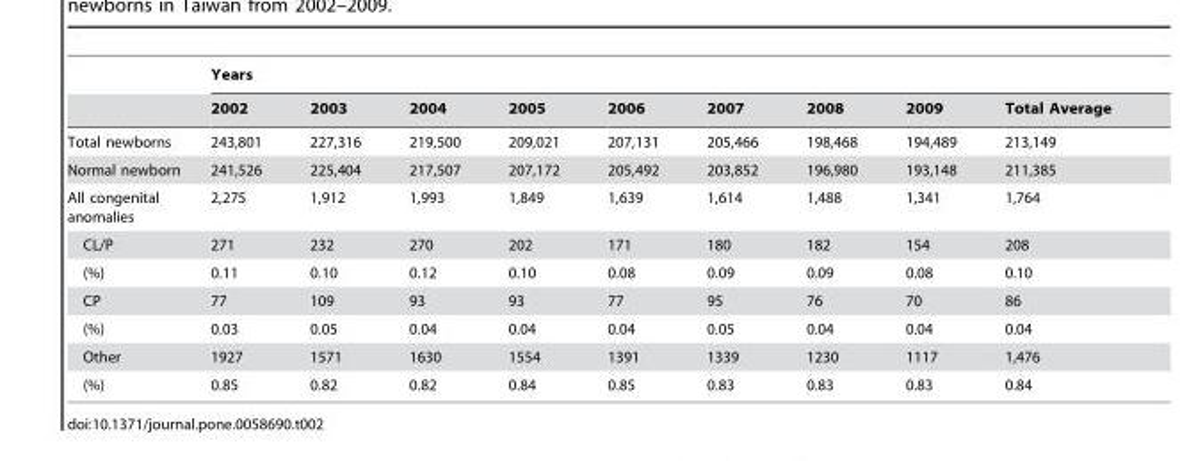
<table><thead><tr><td rowspan="2"></td><td colspan="9">Years</td></tr><tr><td>2002</td><td>2003</td><td>2004</td><td>2005</td><td>2006</td><td>2007</td><td>2008</td><td>2009</td><td>Total Average</td></tr></thead><tbody><tr><td>Total newborns</td><td>243,801</td><td>227,316</td><td>219,500</td><td>209,021</td><td>207,131</td><td>205,466</td><td>198,468</td><td>194,489</td><td>213,149</td></tr><tr><td>Normal newborn</td><td>241,526</td><td>225,404</td><td>217,507</td><td>207,172</td><td>205,492</td><td>203,852</td><td>196,980</td><td>193,148</td><td>211,385</td></tr><tr><td>All congenital anomalies</td><td>2,275</td><td>1,912</td><td>1,993</td><td>1,849</td><td>1,639</td><td>1,614</td><td>1,488</td><td>1,341</td><td>1,764</td></tr><tr><td>CL/P</td><td>271</td><td>232</td><td>270</td><td>202</td><td>171</td><td>180</td><td>182</td><td>154</td><td>208</td></tr><tr><td>(%)</td><td>0.11</td><td>0.10</td><td>0.12</td><td>0.10</td><td>0.08</td><td>0.09</td><td>0.09</td><td>0.08</td><td>0.10</td></tr><tr><td>CP</td><td>77</td><td>109</td><td>93</td><td>93</td><td>77</td><td>95</td><td>76</td><td>70</td><td>86</td></tr><tr><td>(%)</td><td>0.03</td><td>0.05</td><td>0.04</td><td>0.04</td><td>0.04</td><td>0.05</td><td>0.04</td><td>0.04</td><td>0.04</td></tr><tr><td>Other</td><td>1927</td><td>1571</td><td>1630</td><td>1554</td><td>1391</td><td>1339</td><td>1230</td><td>1117</td><td>1,476</td></tr><tr><td>(%)</td><td>0.85</td><td>0.82</td><td>0.82</td><td>0.84</td><td>0.85</td><td>0.83</td><td>0.83</td><td>0.83</td><td>0.84</td></tr></tbody></table>